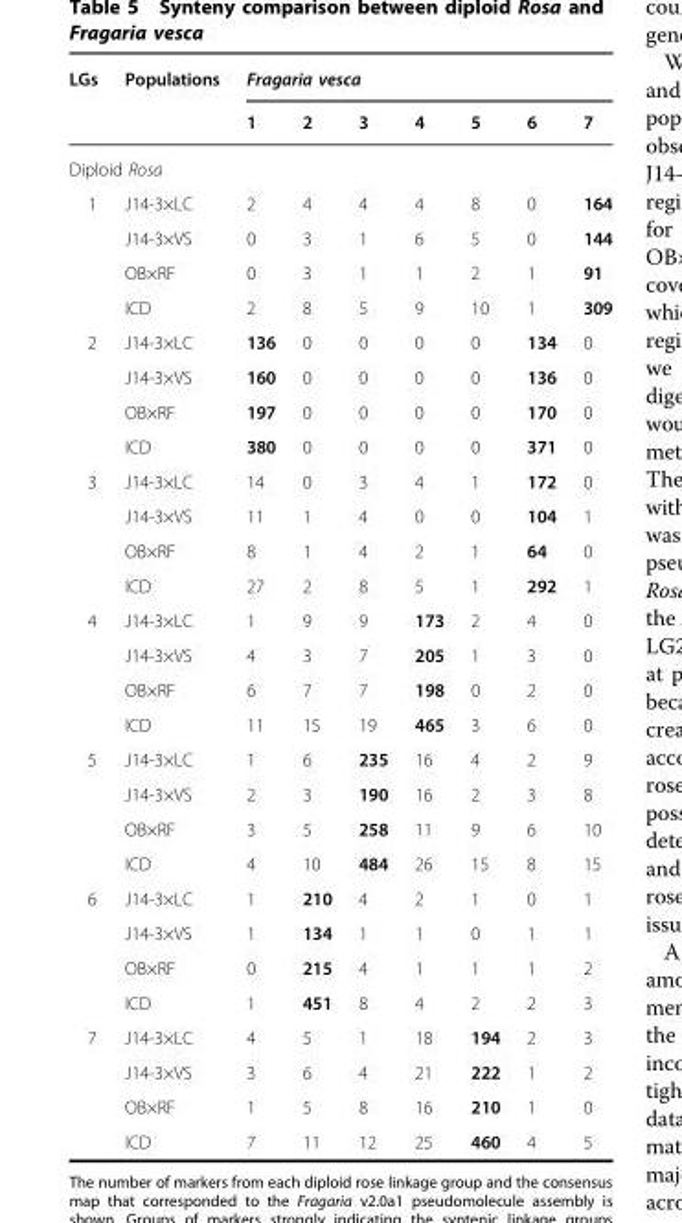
<table><thead><tr><td rowspan="2">LGs</td><td rowspan="2">Populations</td><td colspan="7">Fragaria vesca</td></tr><tr><td>1</td><td>2</td><td>3</td><td>4</td><td>5</td><td>6</td><td>7</td></tr></thead><tbody><tr><td colspan="9">Diploid Rosa</td></tr><tr><td rowspan="4">1</td><td>J14-3×LC</td><td>2</td><td>4</td><td>4</td><td>4</td><td>8</td><td>0</td><td>164</td></tr><tr><td>J14-3×VS</td><td>0</td><td>3</td><td>1</td><td>6</td><td>5</td><td>0</td><td>144</td></tr><tr><td>OB×RF</td><td>0</td><td>3</td><td>1</td><td>1</td><td>2</td><td>1</td><td>91</td></tr><tr><td>ICD</td><td>2</td><td>8</td><td>5</td><td>9</td><td>10</td><td>1</td><td>309</td></tr><tr><td rowspan="4">2</td><td>J14-3×LC</td><td>136</td><td>0</td><td>0</td><td>0</td><td>0</td><td>134</td><td>0</td></tr><tr><td>J14-3×VS</td><td>160</td><td>0</td><td>0</td><td>0</td><td>0</td><td>136</td><td>0</td></tr><tr><td>OB×RF</td><td>197</td><td>0</td><td>0</td><td>0</td><td>0</td><td>170</td><td>0</td></tr><tr><td>ICD</td><td>380</td><td>0</td><td>0</td><td>0</td><td>0</td><td>371</td><td>0</td></tr><tr><td rowspan="4">3</td><td>J14-3×LC</td><td>14</td><td>0</td><td>3</td><td>4</td><td>1</td><td>172</td><td>0</td></tr><tr><td>J14-3×VS</td><td>11</td><td>1</td><td>4</td><td>0</td><td>0</td><td>104</td><td>1</td></tr><tr><td>OB×RF</td><td>8</td><td>1</td><td>4</td><td>2</td><td>1</td><td>64</td><td>0</td></tr><tr><td>ICD</td><td>27</td><td>2</td><td>8</td><td>5</td><td>1</td><td>292</td><td>1</td></tr><tr><td rowspan="4">4</td><td>J14-3×LC</td><td>1</td><td>9</td><td>9</td><td>173</td><td>2</td><td>4</td><td>0</td></tr><tr><td>J14-3×VS</td><td>4</td><td>3</td><td>7</td><td>205</td><td>1</td><td>3</td><td>0</td></tr><tr><td>OB×RF</td><td>6</td><td>7</td><td>7</td><td>198</td><td>0</td><td>2</td><td>0</td></tr><tr><td>ICD</td><td>11</td><td>15</td><td>19</td><td>465</td><td>3</td><td>6</td><td>0</td></tr><tr><td rowspan="4">5</td><td>J14-3×LC</td><td>1</td><td>6</td><td>235</td><td>16</td><td>4</td><td>2</td><td>9</td></tr><tr><td>J14-3×VS</td><td>2</td><td>3</td><td>190</td><td>16</td><td>2</td><td>3</td><td>8</td></tr><tr><td>OB×RF</td><td>3</td><td>5</td><td>258</td><td>11</td><td>9</td><td>6</td><td>10</td></tr><tr><td>ICD</td><td>4</td><td>10</td><td>484</td><td>26</td><td>15</td><td>8</td><td>15</td></tr><tr><td rowspan="4">6</td><td>J14-3×LC</td><td>1</td><td>210</td><td>4</td><td>2</td><td>1</td><td>0</td><td>1</td></tr><tr><td>J14-3×VS</td><td>1</td><td>134</td><td>1</td><td>1</td><td>0</td><td>1</td><td>1</td></tr><tr><td>OB×RF</td><td>0</td><td>215</td><td>4</td><td>1</td><td>1</td><td>1</td><td>2</td></tr><tr><td>ICD</td><td>1</td><td>451</td><td>8</td><td>4</td><td>2</td><td>2</td><td>3</td></tr><tr><td rowspan="4">7</td><td>J14-3×LC</td><td>4</td><td>5</td><td>1</td><td>18</td><td>194</td><td>2</td><td>3</td></tr><tr><td>J14-3×VS</td><td>3</td><td>6</td><td>4</td><td>21</td><td>222</td><td>1</td><td>2</td></tr><tr><td>OB×RF</td><td>1</td><td>5</td><td>8</td><td>16</td><td>210</td><td>1</td><td>0</td></tr><tr><td>ICD</td><td>7</td><td>11</td><td>12</td><td>25</td><td>460</td><td>4</td><td>5</td></tr></tbody></table>